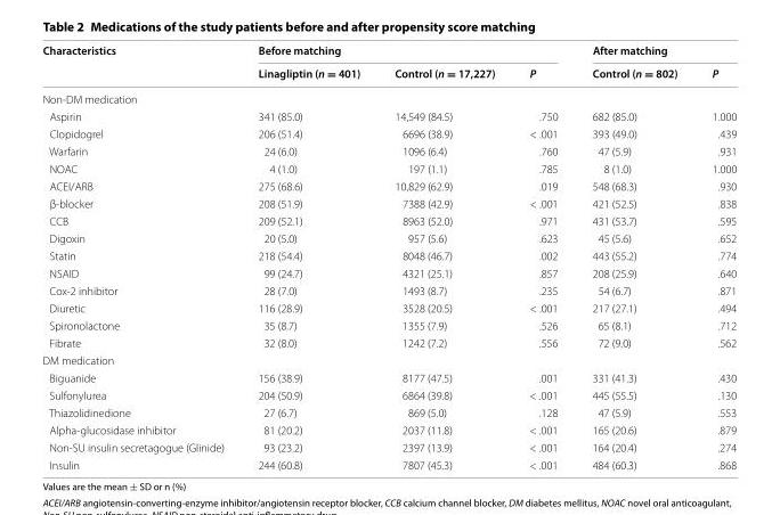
<table><thead><tr><td rowspan="2">Characteristics</td><td colspan="3">Before matching</td><td colspan="2">After matching</td></tr><tr><td>Linagliptin (n = 401)</td><td>Control (n = 17,227)</td><td>P</td><td>Control (n = 802)</td><td>P</td></tr></thead><tbody><tr><td colspan="6">Non‑DM medication</td></tr><tr><td>Aspirin</td><td>341 (85.0)</td><td>14,549 (84.5)</td><td>.750</td><td>682 (85.0)</td><td>1.000</td></tr><tr><td>Clopidogrel</td><td>206 (51.4)</td><td>6696 (38.9)</td><td>&lt; .001</td><td>393 (49.0)</td><td>.439</td></tr><tr><td>Warfarin</td><td>24 (6.0)</td><td>1096 (6.4)</td><td>.760</td><td>47 (5.9)</td><td>.931</td></tr><tr><td>NOAC</td><td>4 (1.0)</td><td>197 (1.1)</td><td>.785</td><td>8 (1.0)</td><td>1.000</td></tr><tr><td>ACEI/ARB</td><td>275 (68.6)</td><td>10,829 (62.9)</td><td>.019</td><td>548 (68.3)</td><td>.930</td></tr><tr><td>β‑blocker</td><td>208 (51.9)</td><td>7388 (42.9)</td><td>&lt; .001</td><td>421 (52.5)</td><td>.838</td></tr><tr><td>CCB</td><td>209 (52.1)</td><td>8963 (52.0)</td><td>.971</td><td>431 (53.7)</td><td>.595</td></tr><tr><td>Digoxin</td><td>20 (5.0)</td><td>957 (5.6)</td><td>.623</td><td>45 (5.6)</td><td>.652</td></tr><tr><td>Statin</td><td>218 (54.4)</td><td>8048 (46.7)</td><td>.002</td><td>443 (55.2)</td><td>.774</td></tr><tr><td>NSAID</td><td>99 (24.7)</td><td>4321 (25.1)</td><td>.857</td><td>208 (25.9)</td><td>.640</td></tr><tr><td>Cox‑2 inhibitor</td><td>28 (7.0)</td><td>1493 (8.7)</td><td>.235</td><td>54 (6.7)</td><td>.871</td></tr><tr><td>Diuretic</td><td>116 (28.9)</td><td>3528 (20.5)</td><td>&lt; .001</td><td>217 (27.1)</td><td>.494</td></tr><tr><td>Spironolactone</td><td>35 (8.7)</td><td>1355 (7.9)</td><td>.526</td><td>65 (8.1)</td><td>.712</td></tr><tr><td>Fibrate</td><td>32 (8.0)</td><td>1242 (7.2)</td><td>.556</td><td>72 (9.0)</td><td>.562</td></tr><tr><td colspan="6">DM medication</td></tr><tr><td>Biguanide</td><td>156 (38.9)</td><td>8177 (47.5)</td><td>.001</td><td>331 (41.3)</td><td>.430</td></tr><tr><td>Sulfonylurea</td><td>204 (50.9)</td><td>6864 (39.8)</td><td>&lt; .001</td><td>445 (55.5)</td><td>.130</td></tr><tr><td>Thiazolidinedione</td><td>27 (6.7)</td><td>869 (5.0)</td><td>.128</td><td>47 (5.9)</td><td>.553</td></tr><tr><td>Alpha‑glucosidase inhibitor</td><td>81 (20.2)</td><td>2037 (11.8)</td><td>&lt; .001</td><td>165 (20.6)</td><td>.879</td></tr><tr><td>Non‑SU insulin secretagogue (Glinide)</td><td>93 (23.2)</td><td>2397 (13.9)</td><td>&lt; .001</td><td>164 (20.4)</td><td>.274</td></tr><tr><td>Insulin</td><td>244 (60.8)</td><td>7807 (45.3)</td><td>&lt; .001</td><td>484 (60.3)</td><td>.868</td></tr></tbody></table>